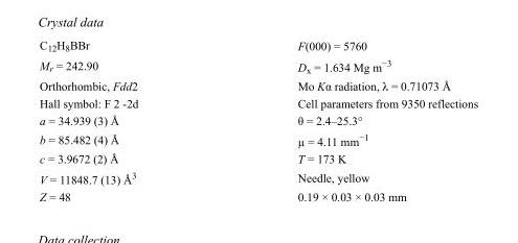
<table><tbody><tr><td>C<sub>12</sub>H<sub>8</sub>BBr</td><td>F(000) = 5760</td></tr><tr><td>M<sub>r</sub> = 242.90</td><td>D<sub>x</sub> = 1.634 Mg m<sup>−3</sup></td></tr><tr><td>Orthorhombic, Fdd2</td><td>Mo Kα radiation, λ = 0.71073 Å</td></tr><tr><td>Hall symbol: F 2 -2d</td><td>Cell parameters from 9350 reflections</td></tr><tr><td>a = 34.939 (3) Å</td><td>θ = 2.4–25.3°</td></tr><tr><td>b = 85.482 (4) Å</td><td>µ = 4.11 mm<sup>−1</sup></td></tr><tr><td>c = 3.9672 (2) Å</td><td>T = 173 K</td></tr><tr><td>V = 11848.7 (13) Å<sup>3</sup></td><td>Needle, yellow</td></tr><tr><td>Z = 48</td><td>0.19 × 0.03 × 0.03 mm</td></tr></tbody></table>